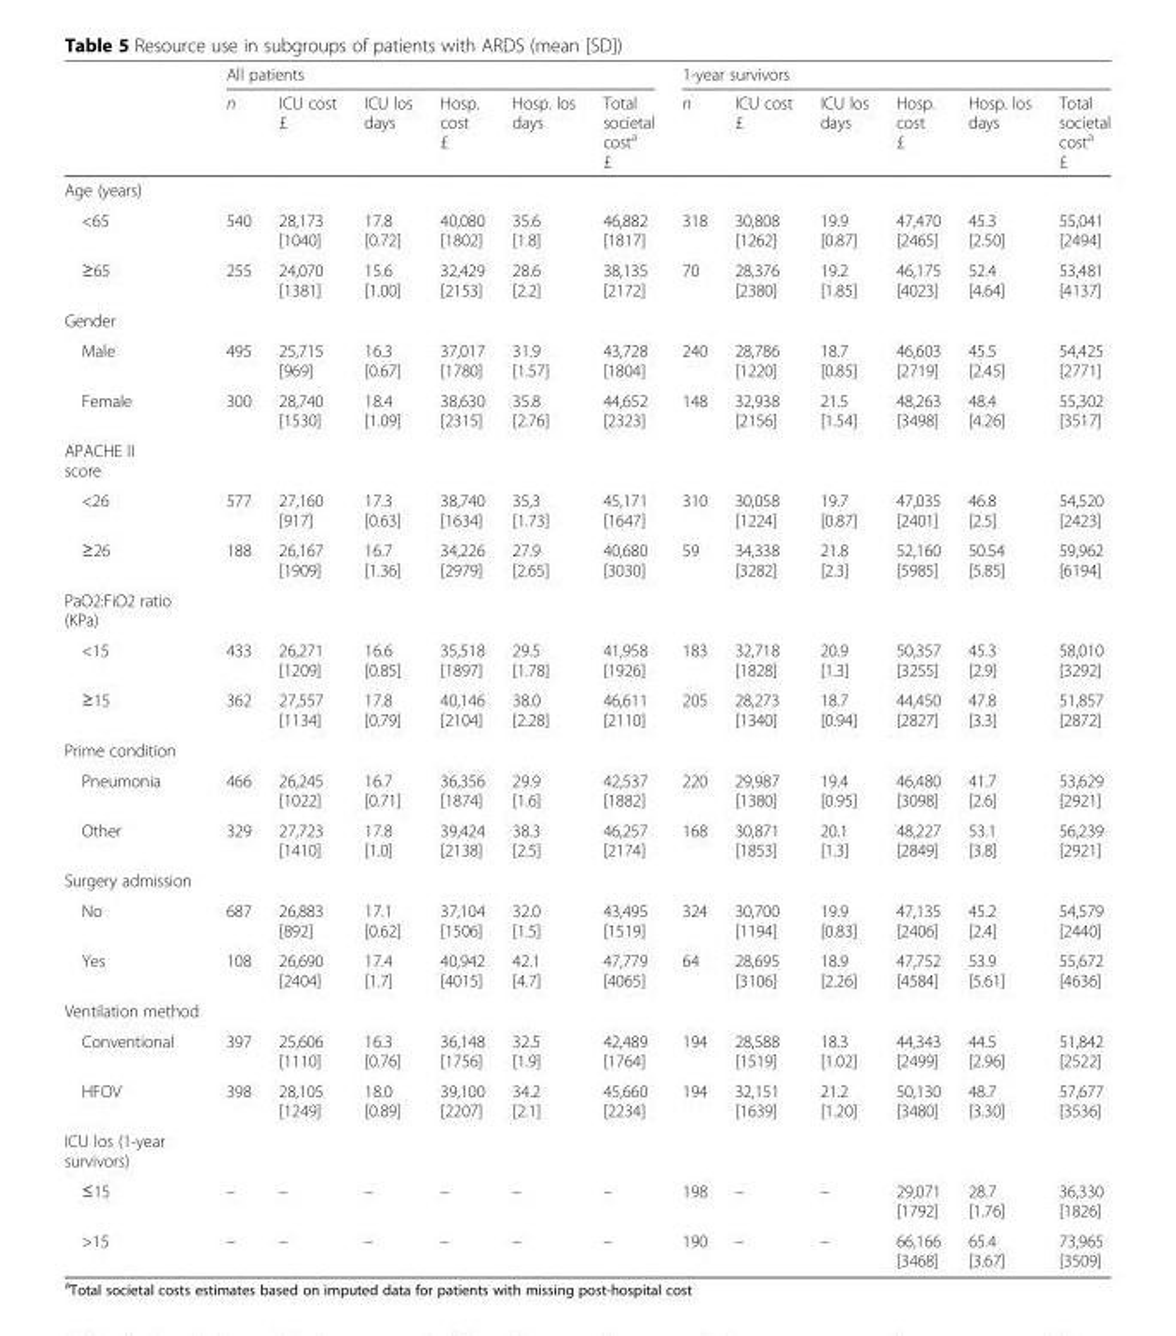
<table><thead><tr><td rowspan="2"></td><td colspan="6">All patients</td><td colspan="6">1-year survivors</td></tr><tr><td>n</td><td>ICU cost £</td><td>ICU los days</td><td>Hosp. cost £</td><td>Hosp. los days</td><td>Total societal cost<sup>a</sup> £</td><td>n</td><td>ICU cost £</td><td>ICU los days</td><td>Hosp. cost £</td><td>Hosp. los days</td><td>Total societal cost<sup>a</sup> £</td></tr></thead><tbody><tr><td colspan="13">Age (years)</td></tr><tr><td>&lt;65</td><td>540</td><td>28,173 [1040]</td><td>17.8 [0.72]</td><td>40,080 [1802]</td><td>35.6 [1.8]</td><td>46,882 [1817]</td><td>318</td><td>30,808 [1262]</td><td>19.9 [0.87]</td><td>47,470 [2465]</td><td>45.3 [2.50]</td><td>55,041 [2494]</td></tr><tr><td>≥65</td><td>255</td><td>24,070 [1381]</td><td>15.6 [1.00]</td><td>32,429 [2153]</td><td>28.6 [2.2]</td><td>38,135 [2172]</td><td>70</td><td>28,376 [2380]</td><td>19.2 [1.85]</td><td>46,175 [4023]</td><td>52.4 [4.64]</td><td>53,481 [4137]</td></tr><tr><td colspan="13">Gender</td></tr><tr><td>Male</td><td>495</td><td>25,715 [969]</td><td>16.3 [0.67]</td><td>37,017 [1780]</td><td>31.9 [1.57]</td><td>43,728 [1804]</td><td>240</td><td>28,786 [1220]</td><td>18.7 [0.85]</td><td>46,603 [2719]</td><td>45.5 [2.45]</td><td>54,425 [2771]</td></tr><tr><td>Female</td><td>300</td><td>28,740 [1530]</td><td>18.4 [1.09]</td><td>38,630 [2315]</td><td>35.8 [2.76]</td><td>44,652 [2323]</td><td>148</td><td>32,938 [2156]</td><td>21.5 [1.54]</td><td>48,263 [3498]</td><td>48.4 [4.26]</td><td>55,302 [3517]</td></tr><tr><td colspan="13">APACHE II score</td></tr><tr><td>&lt;26</td><td>577</td><td>27,160 [917]</td><td>17.3 [0.63]</td><td>38,740 [1634]</td><td>35,3 [1.73]</td><td>45,171 [1647]</td><td>310</td><td>30,058 [1224]</td><td>19.7 [0.87]</td><td>47,035 [2401]</td><td>46.8 [2.5]</td><td>54,520 [2423]</td></tr><tr><td>≥26</td><td>188</td><td>26,167 [1909]</td><td>16.7 [1.36]</td><td>34,226 [2979]</td><td>27.9 [2.65]</td><td>40,680 [3030]</td><td>59</td><td>34,338 [3282]</td><td>21.8 [2.3]</td><td>52,160 [5985]</td><td>50.54 [5.85]</td><td>59,962 [6194]</td></tr><tr><td colspan="13">PaO2:FiO2 ratio (KPa)</td></tr><tr><td>&lt;15</td><td>433</td><td>26,271 [1209]</td><td>16.6 [0.85]</td><td>35,518 [1897]</td><td>29.5 [1.78]</td><td>41,958 [1926]</td><td>183</td><td>32,718 [1828]</td><td>20.9 [1.3]</td><td>50,357 [3255]</td><td>45.3 [2.9]</td><td>58,010 [3292]</td></tr><tr><td>≥15</td><td>362</td><td>27,557 [1134]</td><td>17.8 [0.79]</td><td>40,146 [2104]</td><td>38.0 [2.28]</td><td>46,611 [2110]</td><td>205</td><td>28,273 [1340]</td><td>18.7 [0.94]</td><td>44,450 [2827]</td><td>47.8 [3.3]</td><td>51,857 [2872]</td></tr><tr><td colspan="13">Prime condition</td></tr><tr><td>Pneumonia</td><td>466</td><td>26,245 [1022]</td><td>16.7 [0.71]</td><td>36,356 [1874]</td><td>29.9 [1.6]</td><td>42,537 [1882]</td><td>220</td><td>29,987 [1380]</td><td>19.4 [0.95]</td><td>46,480 [3098]</td><td>41.7 [2.6]</td><td>53,629 [2921]</td></tr><tr><td>Other</td><td>329</td><td>27,723 [1410]</td><td>17.8 [1.0]</td><td>39,424 [2138]</td><td>38.3 [2.5]</td><td>46,257 [2174]</td><td>168</td><td>30,871 [1853]</td><td>20.1 [1.3]</td><td>48,227 [2849]</td><td>53.1 [3.8]</td><td>56,239 [2921]</td></tr><tr><td colspan="13">Surgery admission</td></tr><tr><td>No</td><td>687</td><td>26,883 [892]</td><td>17.1 [0.62]</td><td>37,104 [1506]</td><td>32.0 [1.5]</td><td>43,495 [1519]</td><td>324</td><td>30,700 [1194]</td><td>19.9 [0.83]</td><td>47,135 [2406]</td><td>45.2 [2.4]</td><td>54,579 [2440]</td></tr><tr><td>Yes</td><td>108</td><td>26,690 [2404]</td><td>17.4 [1.7]</td><td>40,942 [4015]</td><td>42.1 [4.7]</td><td>47,779 [4065]</td><td>64</td><td>28,695 [3106]</td><td>18.9 [2.26]</td><td>47,752 [4584]</td><td>53.9 [5.61]</td><td>55,672 [4636]</td></tr><tr><td colspan="13">Ventilation method</td></tr><tr><td>Conventional</td><td>397</td><td>25,606 [1110]</td><td>16.3 [0.76]</td><td>36,148 [1756]</td><td>32.5 [1.9]</td><td>42,489 [1764]</td><td>194</td><td>28,588 [1519]</td><td>18.3 [1.02]</td><td>44,343 [2499]</td><td>44.5 [2.96]</td><td>51,842 [2522]</td></tr><tr><td>HFOV</td><td>398</td><td>28,105 [1249]</td><td>18.0 [0.89]</td><td>39,100 [2207]</td><td>34.2 [2.1]</td><td>45,660 [2234]</td><td>194</td><td>32,151 [1639]</td><td>21.2 [1.20]</td><td>50,130 [3480]</td><td>48.7 [3.30]</td><td>57,677 [3536]</td></tr><tr><td colspan="13">ICU los (1-year survivors)</td></tr><tr><td>≤15</td><td>–</td><td>–</td><td>–</td><td>–</td><td>–</td><td>–</td><td>198</td><td>–</td><td>–</td><td>29,071 [1792]</td><td>28.7 [1.76]</td><td>36,330 [1826]</td></tr><tr><td>&gt;15</td><td>–</td><td>–</td><td>–</td><td>–</td><td>–</td><td>–</td><td>190</td><td>–</td><td>–</td><td>66,166 [3468]</td><td>65.4 [3.67]</td><td>73,965 [3509]</td></tr></tbody></table>